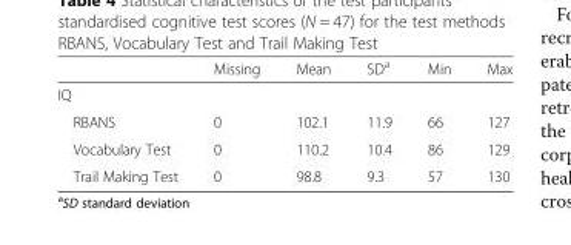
<table><thead><tr><td></td><td>Missing</td><td>Mean</td><td>SD<sup>a</sup></td><td>Min</td><td>Max</td></tr></thead><tbody><tr><td colspan="6">IQ</td></tr><tr><td>RBANS</td><td>0</td><td>102.1</td><td>11.9</td><td>66</td><td>127</td></tr><tr><td>Vocabulary Test</td><td>0</td><td>110.2</td><td>10.4</td><td>86</td><td>129</td></tr><tr><td>Trail Making Test</td><td>0</td><td>98.8</td><td>9.3</td><td>57</td><td>130</td></tr></tbody></table>